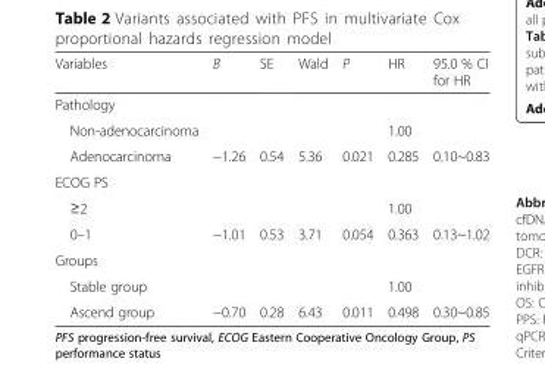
<table><thead><tr><td>Variables</td><td>B</td><td>SE</td><td>Wald</td><td>P</td><td>HR</td><td>95.0 % CI for HR</td></tr></thead><tbody><tr><td colspan="7">Pathology</td></tr><tr><td>Non-adenocarcinoma</td><td></td><td></td><td></td><td></td><td>1.00</td><td></td></tr><tr><td>Adenocarcinoma</td><td>−1.26</td><td>0.54</td><td>5.36</td><td>0.021</td><td>0.285</td><td>0.10~0.83</td></tr><tr><td colspan="7">ECOG PS</td></tr><tr><td>≥2</td><td></td><td></td><td></td><td></td><td>1.00</td><td></td></tr><tr><td>0–1</td><td>−1.01</td><td>0.53</td><td>3.71</td><td>0.054</td><td>0.363</td><td>0.13~1.02</td></tr><tr><td colspan="7">Groups</td></tr><tr><td>Stable group</td><td></td><td></td><td></td><td></td><td>1.00</td><td></td></tr><tr><td>Ascend group</td><td>−0.70</td><td>0.28</td><td>6.43</td><td>0.011</td><td>0.498</td><td>0.30~0.85</td></tr></tbody></table>